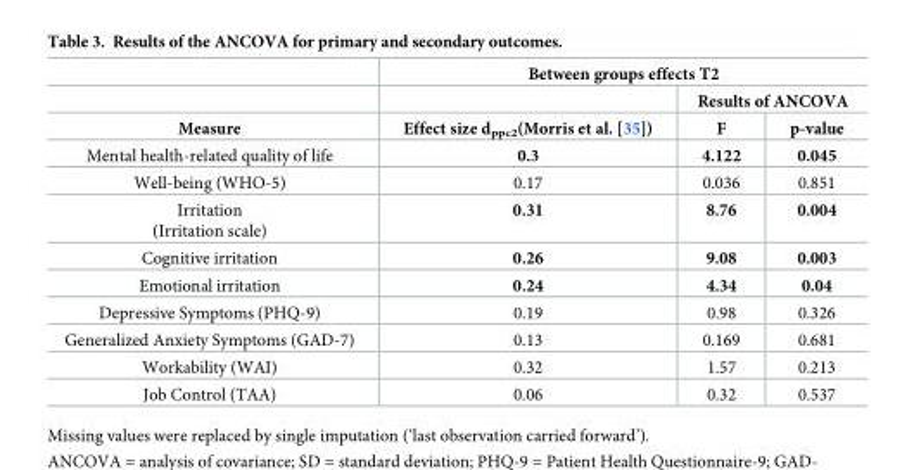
<table><thead><tr><td rowspan="3">Measure</td><td colspan="3">Between groups effects T2</td></tr><tr><td rowspan="2">Effect size d<sub>ppc2</sub>(Morris et al. [35])</td><td colspan="2">Results of ANCOVA</td></tr><tr><td>F</td><td>p-value</td></tr></thead><tbody><tr><td>Mental health-related quality of life</td><td>0.3</td><td>4.122</td><td>0.045</td></tr><tr><td>Well-being (WHO-5)</td><td>0.17</td><td>0.036</td><td>0.851</td></tr><tr><td>Irritation (Irritation scale)</td><td>0.31</td><td>8.76</td><td>0.004</td></tr><tr><td>Cognitive irritation</td><td>0.26</td><td>9.08</td><td>0.003</td></tr><tr><td>Emotional irritation</td><td>0.24</td><td>4.34</td><td>0.04</td></tr><tr><td>Depressive Symptoms (PHQ-9)</td><td>0.19</td><td>0.98</td><td>0.326</td></tr><tr><td>Generalized Anxiety Symptoms (GAD-7)</td><td>0.13</td><td>0.169</td><td>0.681</td></tr><tr><td>Workability (WAI)</td><td>0.32</td><td>1.57</td><td>0.213</td></tr><tr><td>Job Control (TAA)</td><td>0.06</td><td>0.32</td><td>0.537</td></tr></tbody></table>